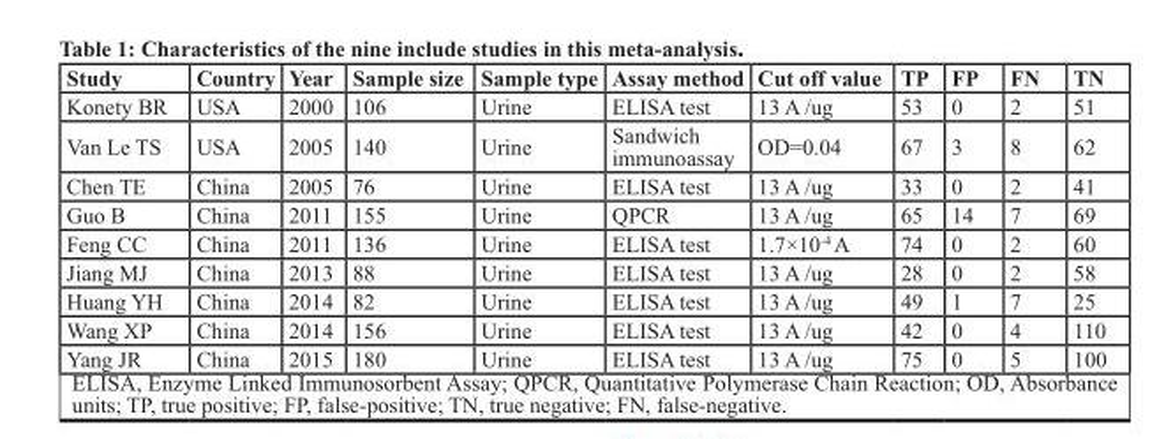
<table><thead><tr><td>Study</td><td>Country</td><td>Year</td><td>Sample size</td><td>Sample type</td><td>Assay method</td><td>Cut off value</td><td>TP</td><td>FP</td><td>FN</td><td>TN</td></tr></thead><tbody><tr><td>Konety BR</td><td>USA</td><td>2000</td><td>106</td><td>Urine</td><td>ELISA test</td><td>13 A /ug</td><td>53</td><td>0</td><td>2</td><td>51</td></tr><tr><td>Van Le TS</td><td>USA</td><td>2005</td><td>140</td><td>Urine</td><td>Sandwich immunoassay</td><td>OD=0.04</td><td>67</td><td>3</td><td>8</td><td>62</td></tr><tr><td>Chen TE</td><td>China</td><td>2005</td><td>76</td><td>Urine</td><td>ELISA test</td><td>13 A /ug</td><td>33</td><td>0</td><td>2</td><td>41</td></tr><tr><td>Guo B</td><td>China</td><td>2011</td><td>155</td><td>Urine</td><td>QPCR</td><td>13 A /ug</td><td>65</td><td>14</td><td>7</td><td>69</td></tr><tr><td>Feng CC</td><td>China</td><td>2011</td><td>136</td><td>Urine</td><td>ELISA test</td><td>1.7×10<sup>-4</sup> A</td><td>74</td><td>0</td><td>2</td><td>60</td></tr><tr><td>Jiang MJ</td><td>China</td><td>2013</td><td>88</td><td>Urine</td><td>ELISA test</td><td>13 A /ug</td><td>28</td><td>0</td><td>2</td><td>58</td></tr><tr><td>Huang YH</td><td>China</td><td>2014</td><td>82</td><td>Urine</td><td>ELISA test</td><td>13 A /ug</td><td>49</td><td>1</td><td>7</td><td>25</td></tr><tr><td>Wang XP</td><td>China</td><td>2014</td><td>156</td><td>Urine</td><td>ELISA test</td><td>13 A /ug</td><td>42</td><td>0</td><td>4</td><td>110</td></tr><tr><td>Yang JR</td><td>China</td><td>2015</td><td>180</td><td>Urine</td><td>ELISA test</td><td>13 A /ug</td><td>75</td><td>0</td><td>5</td><td>100</td></tr></tbody></table>